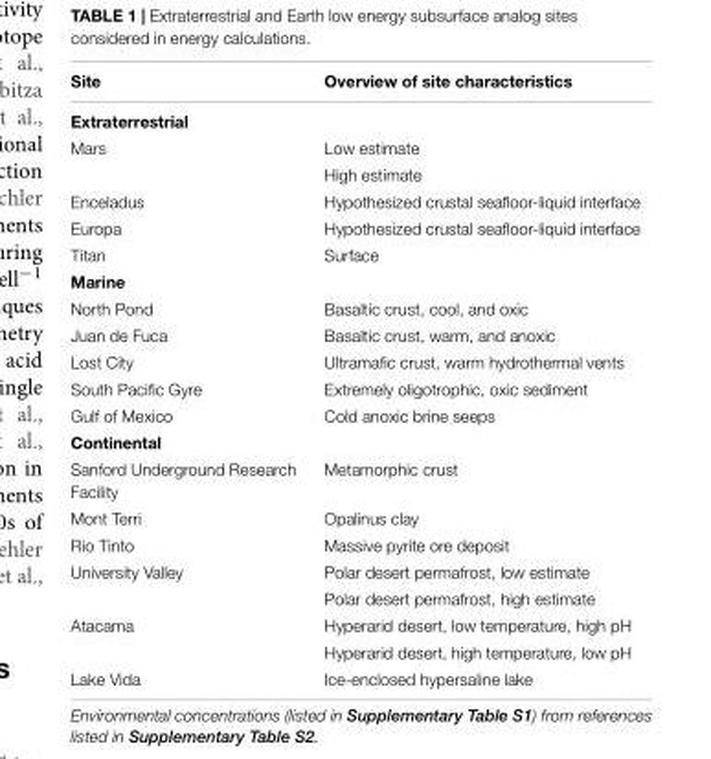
<table><thead><tr><td>Site</td><td>Overview of site characteristics</td></tr></thead><tbody><tr><td colspan="2">Extraterrestrial</td></tr><tr><td rowspan="2">Mars</td><td>Low estimate</td></tr><tr><td>High estimate</td></tr><tr><td>Enceladus</td><td>Hypothesized crustal seafloor-liquid interface</td></tr><tr><td>Europa</td><td>Hypothesized crustal seafloor-liquid interface</td></tr><tr><td>Titan</td><td>Surface</td></tr><tr><td colspan="2">Marine</td></tr><tr><td>North Pond</td><td>Basaltic crust, cool, and oxic</td></tr><tr><td>Juan de Fuca</td><td>Basaltic crust, warm, and anoxic</td></tr><tr><td>Lost City</td><td>Ultramafic crust, warm hydrothermal vents</td></tr><tr><td>South Pacific Gyre</td><td>Extremely oligotrophic, oxic sediment</td></tr><tr><td>Gulf of Mexico</td><td>Cold anoxic brine seeps</td></tr><tr><td colspan="2">Continental</td></tr><tr><td>Sanford Underground Research Facility</td><td>Metamorphic crust</td></tr><tr><td>Mont Terri</td><td>Opalinus clay</td></tr><tr><td>Rio Tinto</td><td>Massive pyrite ore deposit</td></tr><tr><td rowspan="2">University Valley</td><td>Polar desert permafrost, low estimate</td></tr><tr><td>Polar desert permafrost, high estimate</td></tr><tr><td rowspan="2">Atacama</td><td>Hyperarid desert, low temperature, high pH</td></tr><tr><td>Hyperarid desert, high temperature, low pH</td></tr><tr><td>Lake Vida</td><td>Ice-enclosed hypersaline lake</td></tr></tbody></table>